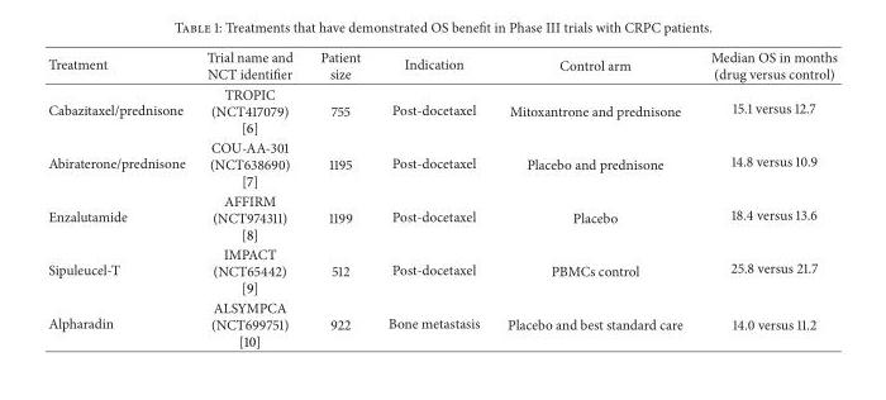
<table><thead><tr><td>Treatment</td><td>Trial name and NCT identifier</td><td>Patient size</td><td>Indication</td><td>Control arm</td><td>Median OS in months (drug versus control)</td></tr></thead><tbody><tr><td>Cabazitaxel/prednisone</td><td>TROPIC (NCT417079) [6]</td><td>755</td><td>Post-docetaxel</td><td>Mitoxantrone and prednisone</td><td>15.1 versus 12.7</td></tr><tr><td>Abiraterone/prednisone</td><td>COU-AA-301 (NCT638690) [7]</td><td>1195</td><td>Post-docetaxel</td><td>Placebo and prednisone</td><td>14.8 versus 10.9</td></tr><tr><td>Enzalutamide</td><td>AFFIRM (NCT974311) [8]</td><td>1199</td><td>Post-docetaxel</td><td>Placebo</td><td>18.4 versus 13.6</td></tr><tr><td>Sipuleucel-T</td><td>IMPACT (NCT65442) [9]</td><td>512</td><td>Post-docetaxel</td><td>PBMCs control</td><td>25.8 versus 21.7</td></tr><tr><td>Alpharadin</td><td>ALSYMPCA (NCT699751) [10]</td><td>922</td><td>Bone metastasis</td><td>Placebo and best standard care</td><td>14.0 versus 11.2</td></tr></tbody></table>